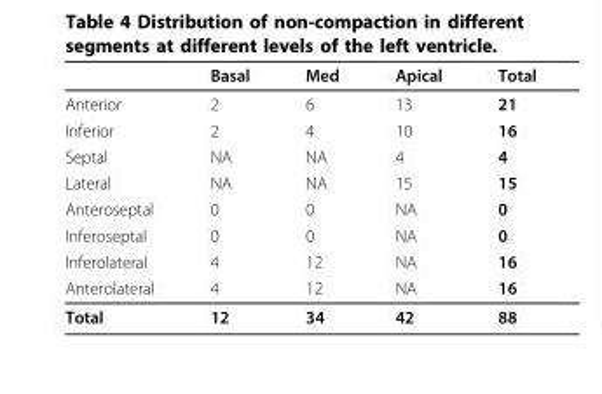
<table><thead><tr><td></td><td>Basal</td><td>Med</td><td>Apical</td><td>Total</td></tr></thead><tbody><tr><td>Anterior</td><td>2</td><td>6</td><td>13</td><td>21</td></tr><tr><td>Inferior</td><td>2</td><td>4</td><td>10</td><td>16</td></tr><tr><td>Septal</td><td>NA</td><td>NA</td><td>4</td><td>4</td></tr><tr><td>Lateral</td><td>NA</td><td>NA</td><td>15</td><td>15</td></tr><tr><td>Anteroseptal</td><td>0</td><td>0</td><td>NA</td><td>0</td></tr><tr><td>Inferoseptal</td><td>0</td><td>0</td><td>NA</td><td>0</td></tr><tr><td>Inferolateral</td><td>4</td><td>12</td><td>NA</td><td>16</td></tr><tr><td>Anterolateral</td><td>4</td><td>12</td><td>NA</td><td>16</td></tr><tr><td>Total</td><td>12</td><td>34</td><td>42</td><td>88</td></tr></tbody></table>